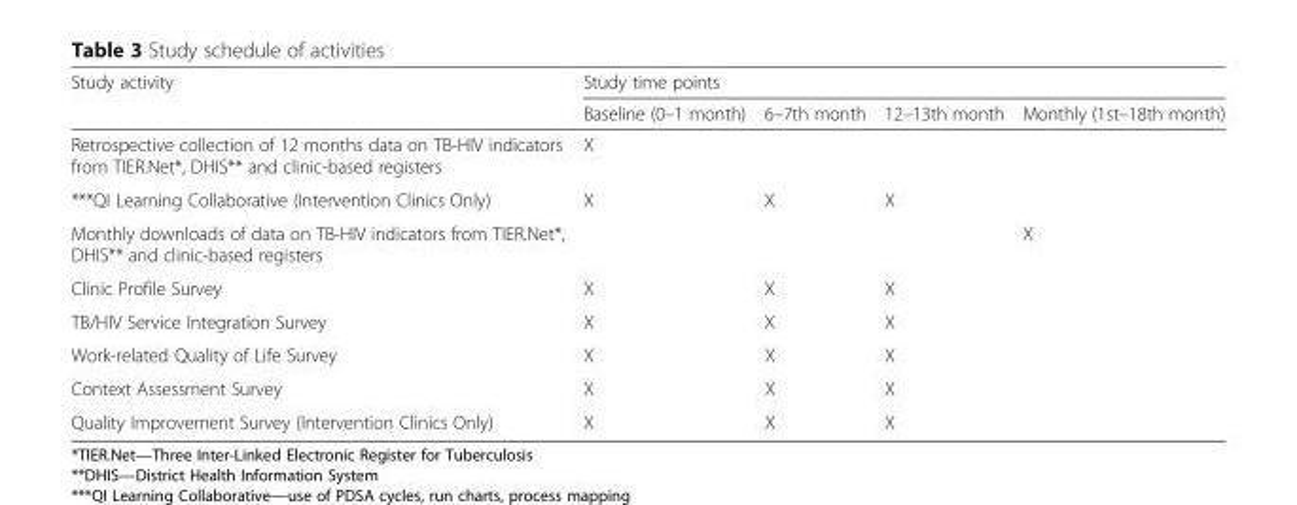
<table><thead><tr><td rowspan="2">Study activity</td><td colspan="4">Study time points</td></tr><tr><td>Baseline (0–1 month)</td><td>6–7th month</td><td>12–13th month</td><td>Monthly (1st–18th month)</td></tr></thead><tbody><tr><td>Retrospective collection of 12 months data on TB-HIV indicators from TIER.Net*, DHIS** and clinic-based registers</td><td>X</td><td></td><td></td><td></td></tr><tr><td>***QI Learning Collaborative (Intervention Clinics Only)</td><td>X</td><td>X</td><td>X</td><td></td></tr><tr><td>Monthly downloads of data on TB-HIV indicators from TIER.Net*, DHIS** and clinic-based registers</td><td></td><td></td><td></td><td>X</td></tr><tr><td>Clinic Profile Survey</td><td>X</td><td>X</td><td>X</td><td></td></tr><tr><td>TB/HIV Service Integration Survey</td><td>X</td><td>X</td><td>X</td><td></td></tr><tr><td>Work-related Quality of Life Survey</td><td>X</td><td>X</td><td>X</td><td></td></tr><tr><td>Context Assessment Survey</td><td>X</td><td>X</td><td>X</td><td></td></tr><tr><td>Quality Improvement Survey (Intervention Clinics Only)</td><td>X</td><td>X</td><td>X</td><td></td></tr></tbody></table>